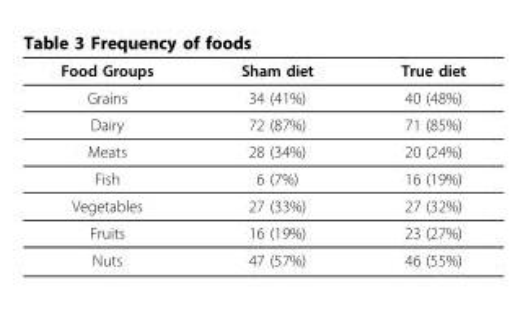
<table><thead><tr><td>Food Groups</td><td>Sham diet</td><td>True diet</td></tr></thead><tbody><tr><td>Grains</td><td>34 (41%)</td><td>40 (48%)</td></tr><tr><td>Dairy</td><td>72 (87%)</td><td>71 (85%)</td></tr><tr><td>Meats</td><td>28 (34%)</td><td>20 (24%)</td></tr><tr><td>Fish</td><td>6 (7%)</td><td>16 (19%)</td></tr><tr><td>Vegetables</td><td>27 (33%)</td><td>27 (32%)</td></tr><tr><td>Fruits</td><td>16 (19%)</td><td>23 (27%)</td></tr><tr><td>Nuts</td><td>47 (57%)</td><td>46 (55%)</td></tr></tbody></table>